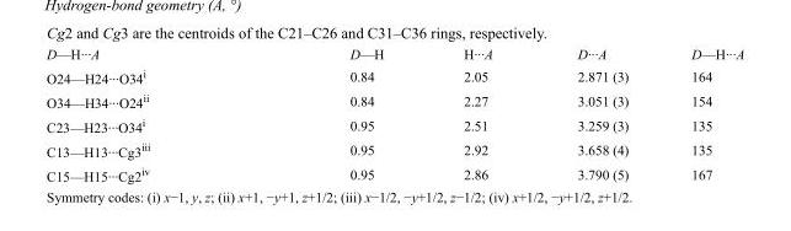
<table><tbody><tr><td>D—H···A</td><td>D—H</td><td>H···A</td><td>D···A</td><td>D—H···A</td></tr><tr><td>O24—H24···O34<sup>i</sup></td><td>0.84</td><td>2.05</td><td>2.871 (3)</td><td>164</td></tr><tr><td>O34—H34···O24<sup>ii</sup></td><td>0.84</td><td>2.27</td><td>3.051 (3)</td><td>154</td></tr><tr><td>C23—H23···O34<sup>i</sup></td><td>0.95</td><td>2.51</td><td>3.259 (3)</td><td>135</td></tr><tr><td>C13—H13···Cg3<sup>iii</sup></td><td>0.95</td><td>2.92</td><td>3.658 (4)</td><td>135</td></tr><tr><td>C15—H15···Cg2<sup>iv</sup></td><td>0.95</td><td>2.86</td><td>3.790 (5)</td><td>167</td></tr></tbody></table>